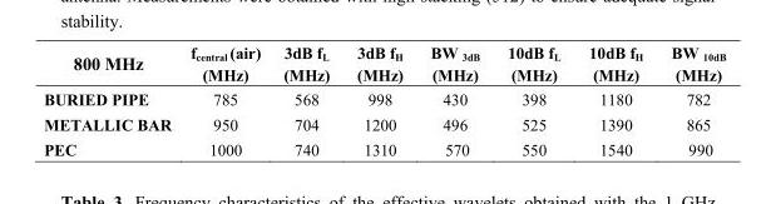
<table><thead><tr><td>800 MHz</td><td>f<sub>central</sub> (air) (MHz)</td><td>3dB f<sub>L</sub> (MHz)</td><td>3dB f<sub>H</sub> (MHz)</td><td>BW <sub>3dB</sub> (MHz)</td><td>10dB f<sub>L</sub> (MHz)</td><td>10dB f<sub>H</sub> (MHz)</td><td>BW <sub>10dB</sub> (MHz)</td></tr></thead><tbody><tr><td>BURIED PIPE</td><td>785</td><td>568</td><td>998</td><td>430</td><td>398</td><td>1180</td><td>782</td></tr><tr><td>METALLIC BAR</td><td>950</td><td>704</td><td>1200</td><td>496</td><td>525</td><td>1390</td><td>865</td></tr><tr><td>PEC</td><td>1000</td><td>740</td><td>1310</td><td>570</td><td>550</td><td>1540</td><td>990</td></tr></tbody></table>